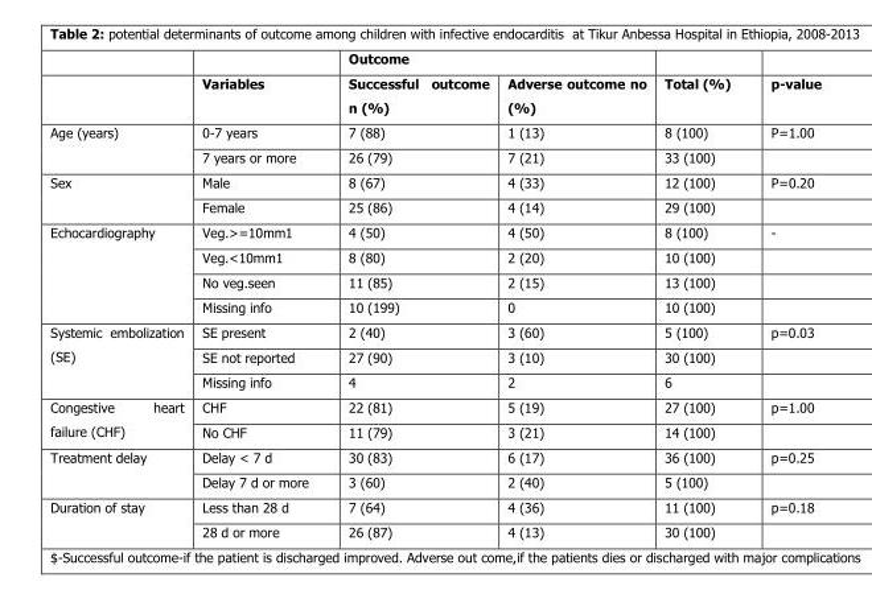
<table><thead><tr><td rowspan="2"></td><td rowspan="2">Variables</td><td colspan="2">Outcome</td><td rowspan="2">Total (%)</td><td rowspan="2">p-value</td></tr><tr><td>Successful outcome n (%)</td><td>Adverse outcome no (%)</td></tr></thead><tbody><tr><td rowspan="2">Age (years)</td><td>0-7 years</td><td>7 (88)</td><td>1 (13)</td><td>8 (100)</td><td>P=1.00</td></tr><tr><td>7 years or more</td><td>26 (79)</td><td>7 (21)</td><td>33 (100)</td><td></td></tr><tr><td rowspan="2">Sex</td><td>Male</td><td>8 (67)</td><td>4 (33)</td><td>12 (100)</td><td>P=0.20</td></tr><tr><td>Female</td><td>25 (86)</td><td>4 (14)</td><td>29 (100)</td><td></td></tr><tr><td rowspan="4">Echocardiography</td><td>Veg.&gt;=10mm1</td><td>4 (50)</td><td>4 (50)</td><td>8 (100)</td><td>-</td></tr><tr><td>Veg.&lt;10mm1</td><td>8 (80)</td><td>2 (20)</td><td>10 (100)</td><td></td></tr><tr><td>No veg.seen</td><td>11 (85)</td><td>2 (15)</td><td>13 (100)</td><td></td></tr><tr><td>Missing info</td><td>10 (199)</td><td>0</td><td>10 (100)</td><td></td></tr><tr><td rowspan="3">Systemic embolization (SE)</td><td>SE present</td><td>2 (40)</td><td>3 (60)</td><td>5 (100)</td><td>p=0.03</td></tr><tr><td>SE not reported</td><td>27 (90)</td><td>3 (10)</td><td>30 (100)</td><td></td></tr><tr><td>Missing info</td><td>4</td><td>2</td><td>6</td><td></td></tr><tr><td rowspan="2">Congestive heart failure (CHF)</td><td>CHF</td><td>22 (81)</td><td>5 (19)</td><td>27 (100)</td><td>p=1.00</td></tr><tr><td>No CHF</td><td>11 (79)</td><td>3 (21)</td><td>14 (100)</td><td></td></tr><tr><td rowspan="2">Treatment delay</td><td>Delay &lt; 7 d</td><td>30 (83)</td><td>6 (17)</td><td>36 (100)</td><td>p=0.25</td></tr><tr><td>Delay 7 d or more</td><td>3 (60)</td><td>2 (40)</td><td>5 (100)</td><td></td></tr><tr><td rowspan="2">Duration of stay</td><td>Less than 28 d</td><td>7 (64)</td><td>4 (36)</td><td>11 (100)</td><td>p=0.18</td></tr><tr><td>28 d or more</td><td>26 (87)</td><td>4 (13)</td><td>30 (100)</td><td></td></tr></tbody></table>